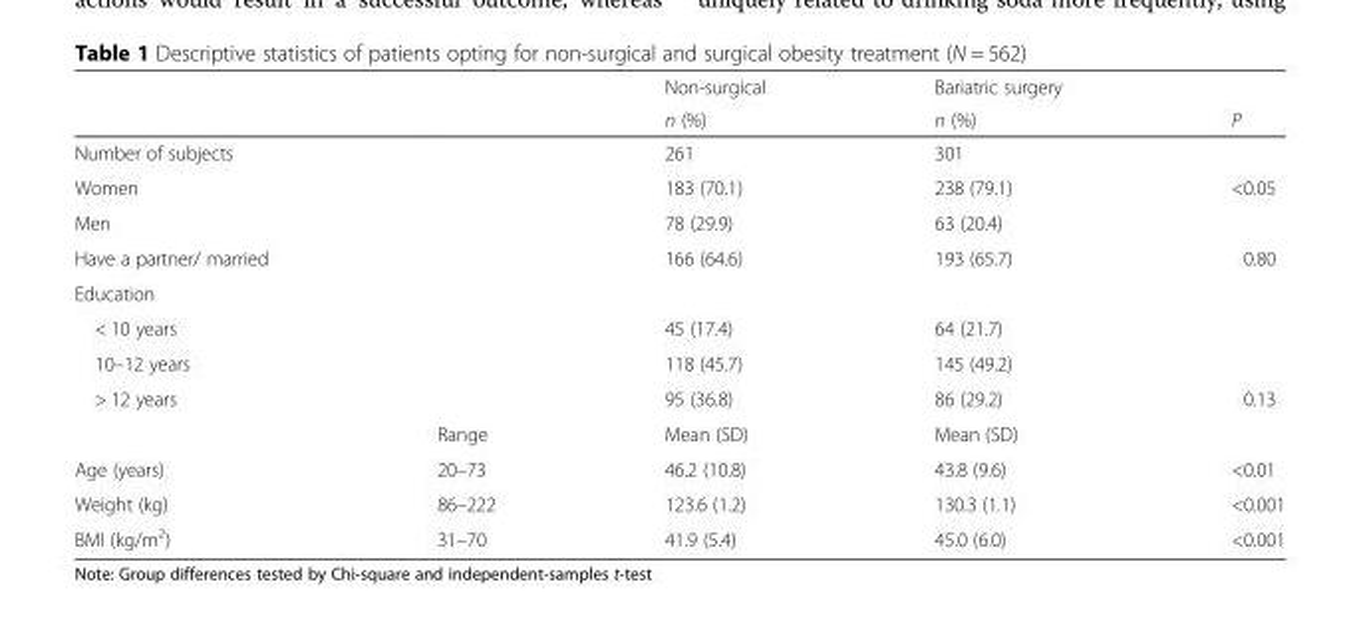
<table><thead><tr><td rowspan="2"></td><td rowspan="2"></td><td rowspan="2">Non-surgical n (%)</td><td rowspan="2">Bariatric surgery n (%)</td><td rowspan="2">P</td></tr><tr></tr></thead><tbody><tr><td>Number of subjects</td><td></td><td>261</td><td>301</td><td></td></tr><tr><td>Women</td><td></td><td>183 (70.1)</td><td>238 (79.1)</td><td rowspan="2">&lt;0.05</td></tr><tr><td>Men</td><td></td><td>78 (29.9)</td><td>63 (20.4)</td></tr><tr><td>Have a partner/ married</td><td></td><td>166 (64.6)</td><td>193 (65.7)</td><td>0.80</td></tr><tr><td colspan="5">Education</td></tr><tr><td>&lt; 10 years</td><td></td><td>45 (17.4)</td><td>64 (21.7)</td><td></td></tr><tr><td>10–12 years</td><td></td><td>118 (45.7)</td><td>145 (49.2)</td><td></td></tr><tr><td rowspan="2">&gt; 12 years</td><td></td><td>95 (36.8)</td><td>86 (29.2)</td><td>0.13</td></tr><tr><td>Range</td><td>Mean (SD)</td><td>Mean (SD)</td><td></td></tr><tr><td>Age (years)</td><td>20–73</td><td>46.2 (10.8)</td><td>43.8 (9.6)</td><td>&lt;0.01</td></tr><tr><td>Weight (kg)</td><td>86–222</td><td>123.6 (1.2)</td><td>130.3 (1.1)</td><td>&lt;0.001</td></tr><tr><td>BMI (kg/m<sup>2</sup>)</td><td>31–70</td><td>41.9 (5.4)</td><td>45.0 (6.0)</td><td>&lt;0.001</td></tr></tbody></table>